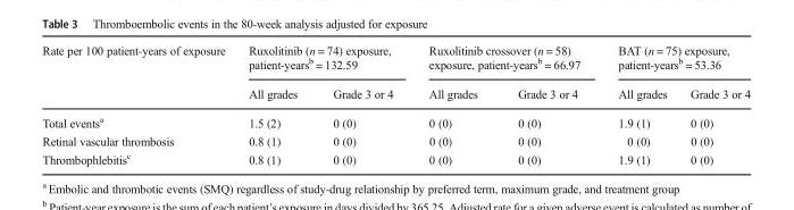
<table><thead><tr><td rowspan="2">Rate per 100 patient-years of exposure</td><td colspan="2">Ruxolitinib (n = 74) exposure, patient-years<sup>b</sup> = 132.59</td><td colspan="2">Ruxolitinib crossover (n = 58) exposure, patient-years<sup>b</sup> = 66.97</td><td colspan="2">BAT (n = 75) exposure, patient-years<sup>b</sup> = 53.36</td></tr><tr><td>All grades</td><td>Grade 3 or 4</td><td>All grades</td><td>Grade 3 or 4</td><td>All grades</td><td>Grade 3 or 4</td></tr></thead><tbody><tr><td>Total events<sup>a</sup></td><td>1.5 (2)</td><td>0 (0)</td><td>0 (0)</td><td>0 (0)</td><td>1.9 (1)</td><td>0 (0)</td></tr><tr><td>Retinal vascular thrombosis</td><td>0.8 (1)</td><td>0 (0)</td><td>0 (0)</td><td>0 (0)</td><td>0 (0)</td><td>0 (0)</td></tr><tr><td>Thrombophlebitis<sup>c</sup></td><td>0.8 (1)</td><td>0 (0)</td><td>0 (0)</td><td>0 (0)</td><td>1.9 (1)</td><td>0 (0)</td></tr></tbody></table>